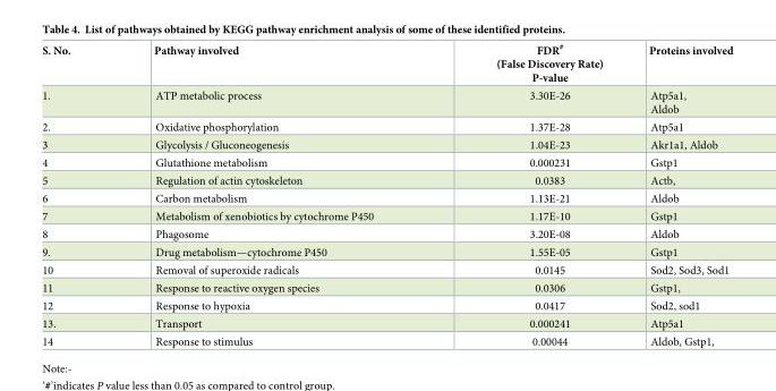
<table><thead><tr><td>S. No.</td><td>Pathway involved</td><td>FDR<sup>#</sup> (False Discovery Rate) P-value</td><td>Proteins involved</td></tr></thead><tbody><tr><td>1.</td><td>ATP metabolic process</td><td>3.30E-26</td><td>Atp5a1, Aldob</td></tr><tr><td>2.</td><td>Oxidative phosphorylation</td><td>1.37E-28</td><td>Atp5a1</td></tr><tr><td>3</td><td>Glycolysis / Gluconeogenesis</td><td>1.04E-23</td><td>Akr1a1, Aldob</td></tr><tr><td>4</td><td>Glutathione metabolism</td><td>0.000231</td><td>Gstp1</td></tr><tr><td>5</td><td>Regulation of actin cytoskeleton</td><td>0.0383</td><td>Actb,</td></tr><tr><td>6</td><td>Carbon metabolism</td><td>1.13E-21</td><td>Aldob</td></tr><tr><td>7</td><td>Metabolism of xenobiotics by cytochrome P450</td><td>1.17E-10</td><td>Gstp1</td></tr><tr><td>8</td><td>Phagosome</td><td>3.20E-08</td><td>Aldob</td></tr><tr><td>9.</td><td>Drug metabolism—cytochrome P450</td><td>1.55E-05</td><td>Gstp1</td></tr><tr><td>10</td><td>Removal of superoxide radicals</td><td>0.0145</td><td>Sod2, Sod3, Sod1</td></tr><tr><td>11</td><td>Response to reactive oxygen species</td><td>0.0306</td><td>Gstp1,</td></tr><tr><td>12</td><td>Response to hypoxia</td><td>0.0417</td><td>Sod2, sod1</td></tr><tr><td>13.</td><td>Transport</td><td>0.000241</td><td>Atp5a1</td></tr><tr><td>14</td><td>Response to stimulus</td><td>0.00044</td><td>Aldob, Gstp1,</td></tr></tbody></table>